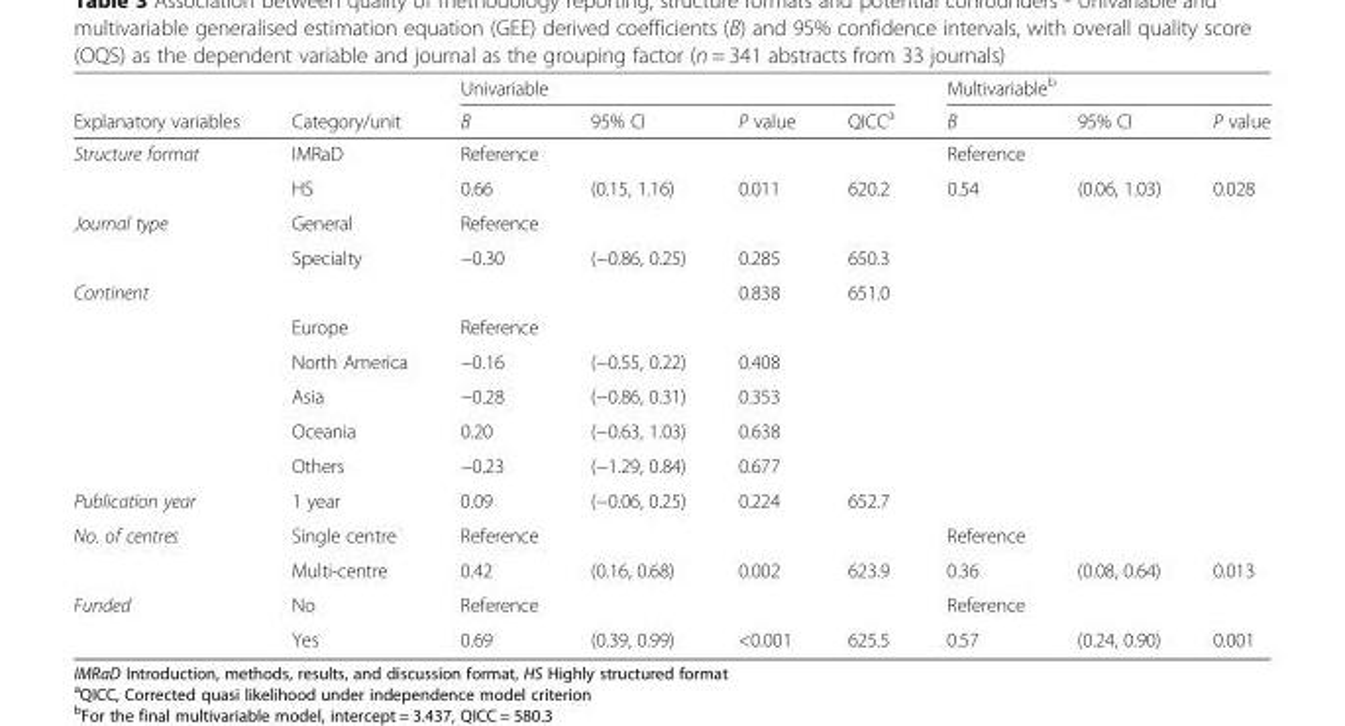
<table><thead><tr><td rowspan="2">Explanatory variables</td><td rowspan="2">Category/unit</td><td colspan="4">Univariable</td><td colspan="3">Multivariable<sup>b</sup></td></tr><tr><td>B</td><td>95% CI</td><td>P value</td><td>QICC<sup>a</sup></td><td>B</td><td>95% CI</td><td>P value</td></tr></thead><tbody><tr><td rowspan="2">Structure format</td><td>IMRaD</td><td>Reference</td><td></td><td></td><td></td><td>Reference</td><td></td><td></td></tr><tr><td>HS</td><td>0.66</td><td>(0.15, 1.16)</td><td>0.011</td><td>620.2</td><td>0.54</td><td>(0.06, 1.03)</td><td>0.028</td></tr><tr><td rowspan="2">Journal type</td><td>General</td><td>Reference</td><td></td><td></td><td></td><td></td><td></td><td></td></tr><tr><td>Specialty</td><td>−0.30</td><td>(−0.86, 0.25)</td><td>0.285</td><td>650.3</td><td></td><td></td><td></td></tr><tr><td rowspan="6">Continent</td><td></td><td></td><td></td><td>0.838</td><td>651.0</td><td></td><td></td><td></td></tr><tr><td>Europe</td><td>Reference</td><td></td><td></td><td></td><td></td><td></td><td></td></tr><tr><td>North America</td><td>−0.16</td><td>(−0.55, 0.22)</td><td>0.408</td><td></td><td></td><td></td><td></td></tr><tr><td>Asia</td><td>−0.28</td><td>(−0.86, 0.31)</td><td>0.353</td><td></td><td></td><td></td><td></td></tr><tr><td>Oceania</td><td>0.20</td><td>(−0.63, 1.03)</td><td>0.638</td><td></td><td></td><td></td><td></td></tr><tr><td>Others</td><td>−0.23</td><td>(−1.29, 0.84)</td><td>0.677</td><td></td><td></td><td></td><td></td></tr><tr><td>Publication year</td><td>1 year</td><td>0.09</td><td>(−0.06, 0.25)</td><td>0.224</td><td>652.7</td><td></td><td></td><td></td></tr><tr><td rowspan="2">No. of centres</td><td>Single centre</td><td>Reference</td><td></td><td></td><td></td><td>Reference</td><td></td><td></td></tr><tr><td>Multi-centre</td><td>0.42</td><td>(0.16, 0.68)</td><td>0.002</td><td>623.9</td><td>0.36</td><td>(0.08, 0.64)</td><td>0.013</td></tr><tr><td rowspan="2">Funded</td><td>No</td><td>Reference</td><td></td><td></td><td></td><td>Reference</td><td></td><td></td></tr><tr><td>Yes</td><td>0.69</td><td>(0.39, 0.99)</td><td>&lt;0.001</td><td>625.5</td><td>0.57</td><td>(0.24, 0.90)</td><td>0.001</td></tr></tbody></table>